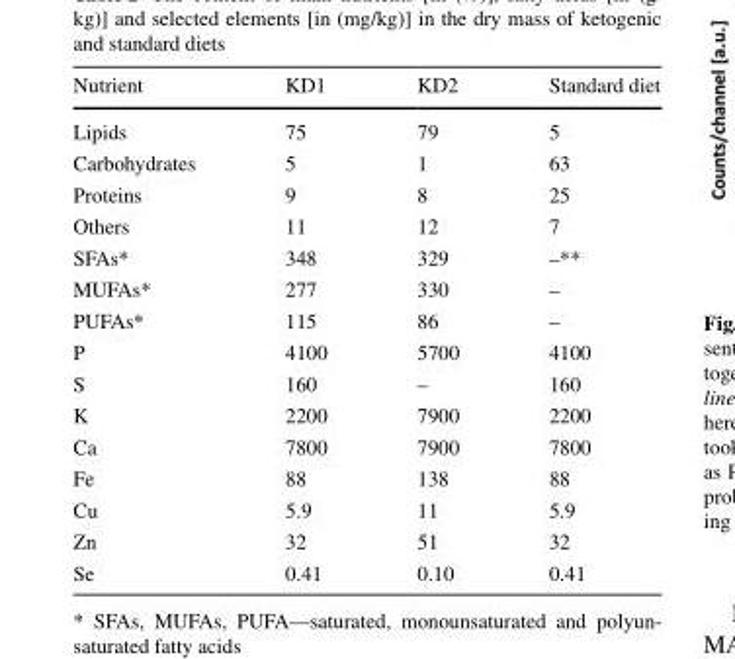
<table><thead><tr><td>Nutrient</td><td>KD1</td><td>KD2</td><td>Standard diet</td></tr></thead><tbody><tr><td>Lipids</td><td>75</td><td>79</td><td>5</td></tr><tr><td>Carbohydrates</td><td>5</td><td>1</td><td>63</td></tr><tr><td>Proteins</td><td>9</td><td>8</td><td>25</td></tr><tr><td>Others</td><td>11</td><td>12</td><td>7</td></tr><tr><td>SFAs*</td><td>348</td><td>329</td><td>–**</td></tr><tr><td>MUFAs*</td><td>277</td><td>330</td><td>–</td></tr><tr><td>PUFAs*</td><td>115</td><td>86</td><td>–</td></tr><tr><td>P</td><td>4100</td><td>5700</td><td>4100</td></tr><tr><td>S</td><td>160</td><td>–</td><td>160</td></tr><tr><td>K</td><td>2200</td><td>7900</td><td>2200</td></tr><tr><td>Ca</td><td>7800</td><td>7900</td><td>7800</td></tr><tr><td>Fe</td><td>88</td><td>138</td><td>88</td></tr><tr><td>Cu</td><td>5.9</td><td>11</td><td>5.9</td></tr><tr><td>Zn</td><td>32</td><td>51</td><td>32</td></tr><tr><td>Se</td><td>0.41</td><td>0.10</td><td>0.41</td></tr></tbody></table>